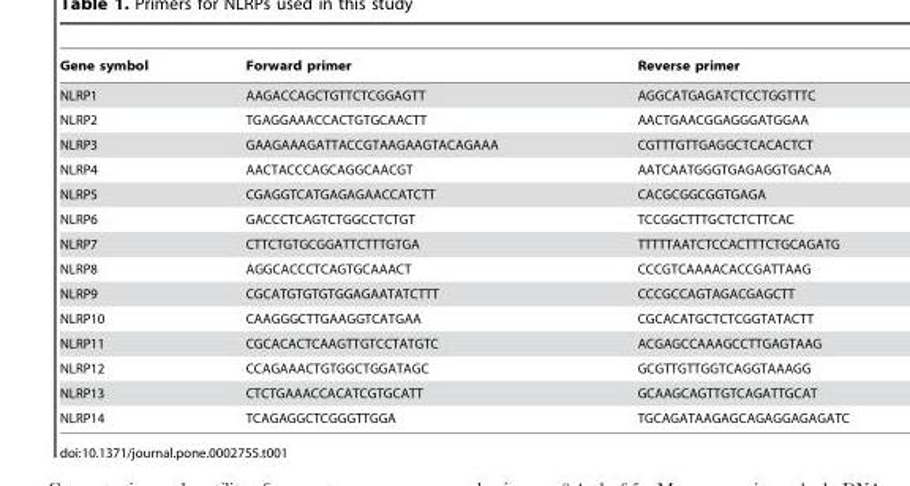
<table><thead><tr><td>Gene symbol</td><td>Forward primer</td><td>Reverse primer</td></tr></thead><tbody><tr><td>NLRP1</td><td>AAGACCAGCTGTTCTCGGAGTT</td><td>AGGCATGAGATCTCCTGGTTTC</td></tr><tr><td>NLRP2</td><td>TGAGGAAACCACTGTGCAACTT</td><td>AACTGAACGGAGGGATGGAA</td></tr><tr><td>NLRP3</td><td>GAAGAAAGATTACCGTAAGAAGTACAGAAA</td><td>CGTTTGTTGAGGCTCACACTCT</td></tr><tr><td>NLRP4</td><td>AACTACCCAGCAGGCAACGT</td><td>AATCAATGGGTGAGAGGTGACAA</td></tr><tr><td>NLRP5</td><td>CGAGGTCATGAGAGAACCATCTT</td><td>CACGCGGCGGTGAGA</td></tr><tr><td>NLRP6</td><td>GACCCTCAGTCTGGCCTCTGT</td><td>TCCGGCTTTGCTCTCTTCAC</td></tr><tr><td>NLRP7</td><td>CTTCTGTGCGGATTCTTTGTGA</td><td>TTTTTAATCTCCACTTTCTGCAGATG</td></tr><tr><td>NLRP8</td><td>AGGCACCCTCAGTGCAAACT</td><td>CCCGTCAAAACACCGATTAAG</td></tr><tr><td>NLRP9</td><td>CGCATGTGTGTGGAGAATATCTTT</td><td>CCCGCCAGTAGACGAGCTT</td></tr><tr><td>NLRP10</td><td>CAAGGGCTTGAAGGTCATGAA</td><td>CGCACATGCTCTCGGTATACTT</td></tr><tr><td>NLRP11</td><td>CGCACACTCAAGTTGTCCTATGTC</td><td>ACGAGCCAAAGCCTTGAGTAAG</td></tr><tr><td>NLRP12</td><td>CCAGAAACTGTGGCTGGATAGC</td><td>GCGTTGTTGGTCAGGTAAAGG</td></tr><tr><td>NLRP13</td><td>CTCTGAAACCACATCGTGCATT</td><td>GCAAGCAGTTGTCAGATTGCAT</td></tr><tr><td>NLRP14</td><td>TCAGAGGCTCGGGTTGGA</td><td>TGCAGATAAGAGCAGAGGAGAGATC</td></tr></tbody></table>